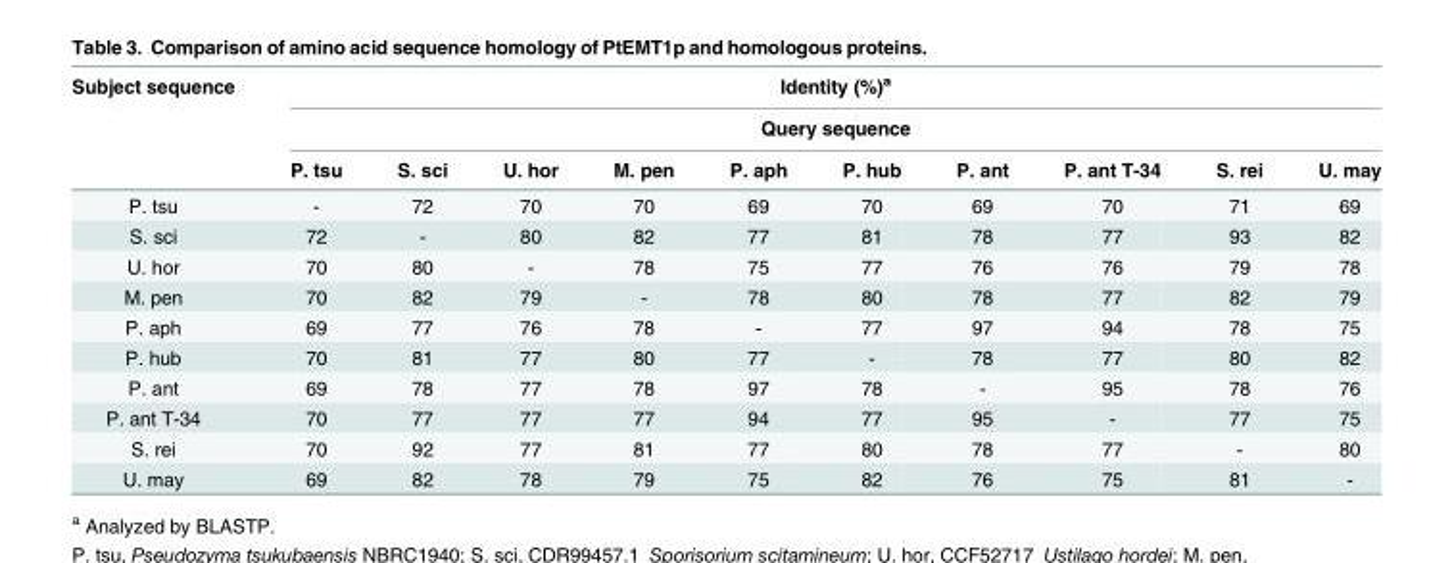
<table><thead><tr><td rowspan="3">Subject sequence</td><td rowspan="2" colspan="10">Identity (%)<sup>a</sup> Query sequence</td></tr><tr></tr><tr><td>P. tsu</td><td>S. sci</td><td>U. hor</td><td>M. pen</td><td>P. aph</td><td>P. hub</td><td>P. ant</td><td>P. ant T-34</td><td>S. rei</td><td>U. may</td></tr></thead><tbody><tr><td>P. tsu</td><td>-</td><td>72</td><td>70</td><td>70</td><td>69</td><td>70</td><td>69</td><td>70</td><td>71</td><td>69</td></tr><tr><td>S. sci</td><td>72</td><td>-</td><td>80</td><td>82</td><td>77</td><td>81</td><td>78</td><td>77</td><td>93</td><td>82</td></tr><tr><td>U. hor</td><td>70</td><td>80</td><td>-</td><td>78</td><td>75</td><td>77</td><td>76</td><td>76</td><td>79</td><td>78</td></tr><tr><td>M. pen</td><td>70</td><td>82</td><td>79</td><td>-</td><td>78</td><td>80</td><td>78</td><td>77</td><td>82</td><td>79</td></tr><tr><td>P. aph</td><td>69</td><td>77</td><td>76</td><td>78</td><td>-</td><td>77</td><td>97</td><td>94</td><td>78</td><td>75</td></tr><tr><td>P. hub</td><td>70</td><td>81</td><td>77</td><td>80</td><td>77</td><td>-</td><td>78</td><td>77</td><td>80</td><td>82</td></tr><tr><td>P. ant</td><td>69</td><td>78</td><td>77</td><td>78</td><td>97</td><td>78</td><td>-</td><td>95</td><td>78</td><td>76</td></tr><tr><td>P. ant T-34</td><td>70</td><td>77</td><td>77</td><td>77</td><td>94</td><td>77</td><td>95</td><td>-</td><td>77</td><td>75</td></tr><tr><td>S. rei</td><td>70</td><td>92</td><td>77</td><td>81</td><td>77</td><td>80</td><td>78</td><td>77</td><td>-</td><td>80</td></tr><tr><td>U. may</td><td>69</td><td>82</td><td>78</td><td>79</td><td>75</td><td>82</td><td>76</td><td>75</td><td>81</td><td>-</td></tr></tbody></table>